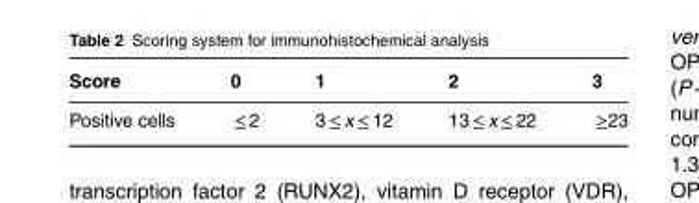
<table><tbody><tr><td>Score</td><td>0</td><td>1</td><td>2</td><td>3</td></tr><tr><td>Positive cells</td><td>≤ 2</td><td>3 ≤ x ≤ 12</td><td>13 ≤ x ≤ 22</td><td>≥23</td></tr></tbody></table>